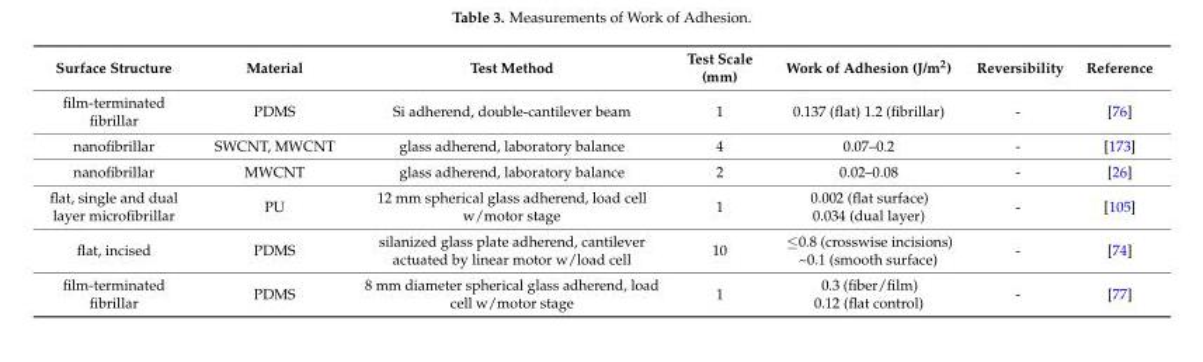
<table><thead><tr><td>Surface Structure</td><td>Material</td><td>Test Method</td><td>Test Scale (mm)</td><td>Work of Adhesion (J/m<sup>2</sup>)</td><td>Reversibility</td><td>Reference</td></tr></thead><tbody><tr><td>film-terminated fibrillar</td><td>PDMS</td><td>Si adherend, double-cantilever beam</td><td>1</td><td>0.137 (flat) 1.2 (fibrillar)</td><td>-</td><td>[76]</td></tr><tr><td>nanofibrillar</td><td>SWCNT, MWCNT</td><td>glass adherend, laboratory balance</td><td>4</td><td>0.07–0.2</td><td>-</td><td>[173]</td></tr><tr><td>nanofibrillar</td><td>MWCNT</td><td>glass adherend, laboratory balance</td><td>2</td><td>0.02–0.08</td><td>-</td><td>[26]</td></tr><tr><td>flat, single and dual layer microfibrillar</td><td>PU</td><td>12 mm spherical glass adherend, load cell w/motor stage</td><td>1</td><td>0.002 (flat surface) 0.034 (dual layer)</td><td>-</td><td>[105]</td></tr><tr><td>flat, incised</td><td>PDMS</td><td>silanized glass plate adherend, cantilever actuated by linear motor w/load cell</td><td>10</td><td>≤0.8 (crosswise incisions) ~0.1 (smooth surface)</td><td>-</td><td>[74]</td></tr><tr><td>film-terminated fibrillar</td><td>PDMS</td><td>8 mm diameter spherical glass adherend, load cell w/motor stage</td><td>1</td><td>0.3 (fiber/film) 0.12 (flat control)</td><td>-</td><td>[77]</td></tr></tbody></table>